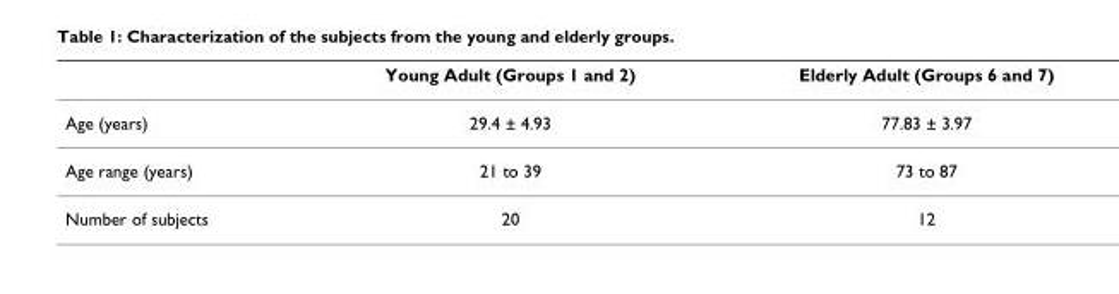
<table><thead><tr><td></td><td>Young Adult (Groups 1 and 2)</td><td>Elderly Adult (Groups 6 and 7)</td></tr></thead><tbody><tr><td>Age (years)</td><td>29.4 ± 4.93</td><td>77.83 ± 3.97</td></tr><tr><td>Age range (years)</td><td>21 to 39</td><td>73 to 87</td></tr><tr><td>Number of subjects</td><td>20</td><td>12</td></tr></tbody></table>